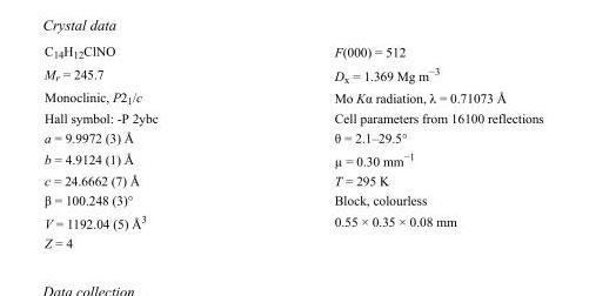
<table><tbody><tr><td>C<sub>14</sub>H<sub>12</sub>ClNO</td><td>F(000) = 512</td></tr><tr><td>M<sub>r</sub> = 245.7</td><td>D<sub>x</sub> = 1.369 Mg m<sup>−3</sup></td></tr><tr><td>Monoclinic, P2<sub>1</sub>/c</td><td>Mo Kα radiation, λ = 0.71073 Å</td></tr><tr><td>Hall symbol: -P 2ybc</td><td>Cell parameters from 16100 reflections</td></tr><tr><td>a = 9.9972 (3) Å</td><td>θ = 2.1–29.5°</td></tr><tr><td>b = 4.9124 (1) Å</td><td>µ = 0.30 mm<sup>−1</sup></td></tr><tr><td>c = 24.6662 (7) Å</td><td>T = 295 K</td></tr><tr><td>β = 100.248 (3)°</td><td>Block, colourless</td></tr><tr><td>V = 1192.04 (5) Å<sup>3</sup></td><td>0.55 × 0.35 × 0.08 mm</td></tr><tr><td>Z = 4</td><td></td></tr></tbody></table>